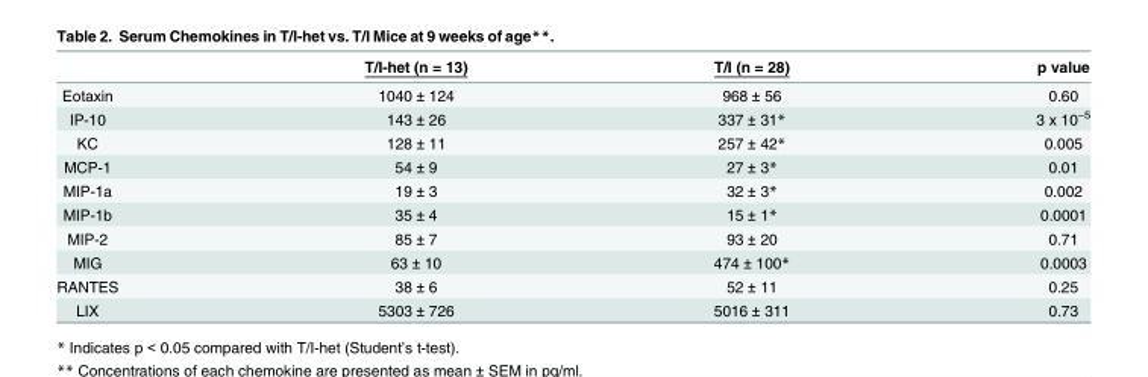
<table><thead><tr><td></td><td>T/I-het (n = 13)</td><td>T/I (n = 28)</td><td>p value</td></tr></thead><tbody><tr><td>Eotaxin</td><td>1040 ± 124</td><td>968 ± 56</td><td>0.60</td></tr><tr><td>IP-10</td><td>143 ± 26</td><td>337 ± 31*</td><td>3 x 10<sup>−5</sup></td></tr><tr><td>KC</td><td>128 ± 11</td><td>257 ± 42*</td><td>0.005</td></tr><tr><td>MCP-1</td><td>54 ± 9</td><td>27 ± 3*</td><td>0.01</td></tr><tr><td>MIP-1a</td><td>19 ± 3</td><td>32 ± 3*</td><td>0.002</td></tr><tr><td>MIP-1b</td><td>35 ± 4</td><td>15 ± 1*</td><td>0.0001</td></tr><tr><td>MIP-2</td><td>85 ± 7</td><td>93 ± 20</td><td>0.71</td></tr><tr><td>MIG</td><td>63 ± 10</td><td>474 ± 100*</td><td>0.0003</td></tr><tr><td>RANTES</td><td>38 ± 6</td><td>52 ± 11</td><td>0.25</td></tr><tr><td>LIX</td><td>5303 ± 726</td><td>5016 ± 311</td><td>0.73</td></tr></tbody></table>